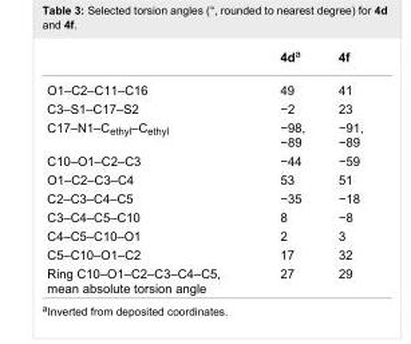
<table><thead><tr><td></td><td>4d<sup>a</sup></td><td>4f</td></tr></thead><tbody><tr><td>O1–C2–C11–C16</td><td>49</td><td>41</td></tr><tr><td>C3–S1–C17–S2</td><td>−2</td><td>23</td></tr><tr><td>C17–N1–C<sub>ethyl</sub>–C<sub>ethyl</sub></td><td>−98, −89</td><td>−91, −89</td></tr><tr><td>C10–O1–C2–C3</td><td>−44</td><td>−59</td></tr><tr><td>O1–C2–C3–C4</td><td>53</td><td>51</td></tr><tr><td>C2–C3–C4–C5</td><td>−35</td><td>−18</td></tr><tr><td>C3–C4–C5–C10</td><td>8</td><td>−8</td></tr><tr><td>C4–C5–C10–O1</td><td>2</td><td>3</td></tr><tr><td>C5–C10–O1–C2</td><td>17</td><td>32</td></tr><tr><td>Ring C10–O1–C2–C3–C4–C5, mean absolute torsion angle</td><td>27</td><td>29</td></tr></tbody></table>